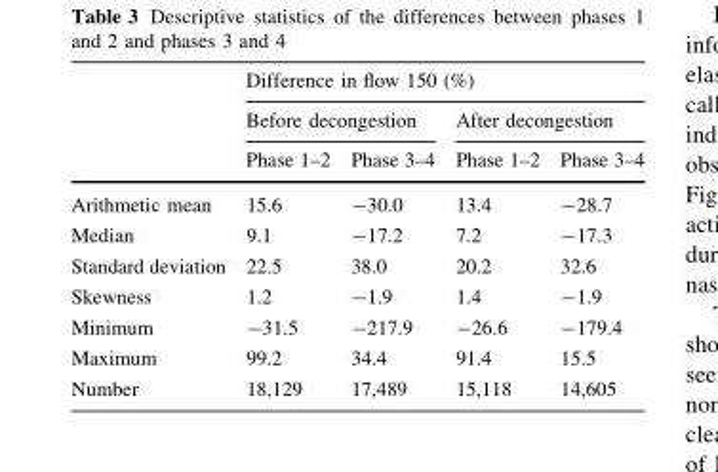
<table><thead><tr><td rowspan="3"></td><td colspan="4">Difference in flow 150 (%)</td></tr><tr><td colspan="2">Before decongestion</td><td colspan="2">After decongestion</td></tr><tr><td>Phase 1–2</td><td>Phase 3–4</td><td>Phase 1–2</td><td>Phase 3–4</td></tr></thead><tbody><tr><td>Arithmetic mean</td><td>15.6</td><td>-30.0</td><td>13.4</td><td>-28.7</td></tr><tr><td>Median</td><td>9.1</td><td>-17.2</td><td>7.2</td><td>-17.3</td></tr><tr><td>Standard deviation</td><td>22.5</td><td>38.0</td><td>20.2</td><td>32.6</td></tr><tr><td>Skewness</td><td>1.2</td><td>-1.9</td><td>1.4</td><td>-1.9</td></tr><tr><td>Minimum</td><td>-31.5</td><td>-217.9</td><td>-26.6</td><td>-179.4</td></tr><tr><td>Maximum</td><td>99.2</td><td>34.4</td><td>91.4</td><td>15.5</td></tr><tr><td>Number</td><td>18,129</td><td>17,489</td><td>15,118</td><td>14,605</td></tr></tbody></table>